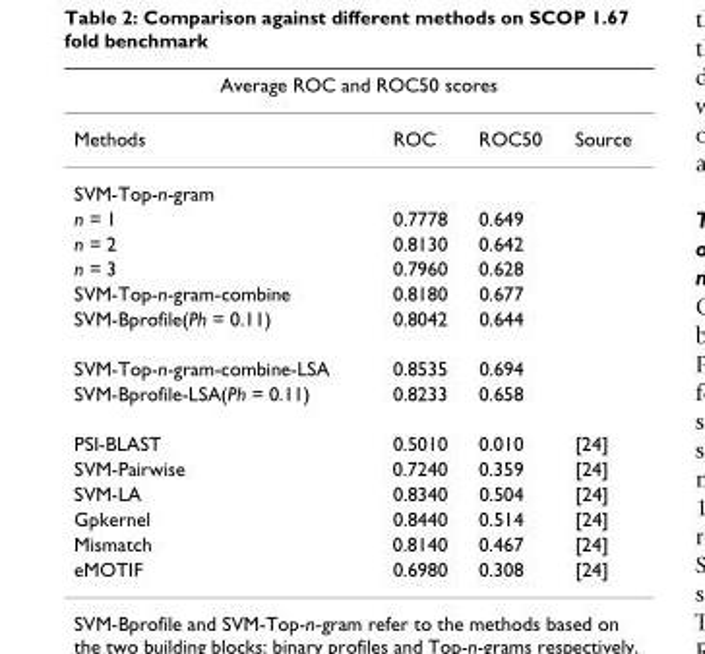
<table><thead><tr><td colspan="4">Average ROC and ROC50 scores</td></tr><tr><td>Methods</td><td>ROC</td><td>ROC50</td><td>Source</td></tr></thead><tbody><tr><td colspan="4">SVM-Top-n-gram</td></tr><tr><td>n = 1</td><td>0.7778</td><td>0.649</td><td></td></tr><tr><td>n = 2</td><td>0.8130</td><td>0.642</td><td></td></tr><tr><td>n = 3</td><td>0.7960</td><td>0.628</td><td></td></tr><tr><td>SVM-Top-n-gram-combine</td><td>0.8180</td><td>0.677</td><td></td></tr><tr><td>SVM-Bprofile(Ph = 0.11)</td><td>0.8042</td><td>0.644</td><td></td></tr><tr><td>SVM-Top-n-gram-combine-LSA</td><td>0.8535</td><td>0.694</td><td></td></tr><tr><td>SVM-Bprofile-LSA(Ph = 0.11)</td><td>0.8233</td><td>0.658</td><td></td></tr><tr><td>PSI-BLAST</td><td>0.5010</td><td>0.010</td><td>[24]</td></tr><tr><td>SVM-Pairwise</td><td>0.7240</td><td>0.359</td><td>[24]</td></tr><tr><td>SVM-LA</td><td>0.8340</td><td>0.504</td><td>[24]</td></tr><tr><td>Gpkernel</td><td>0.8440</td><td>0.514</td><td>[24]</td></tr><tr><td>Mismatch</td><td>0.8140</td><td>0.467</td><td>[24]</td></tr><tr><td>eMOTIF</td><td>0.6980</td><td>0.308</td><td>[24]</td></tr></tbody></table>